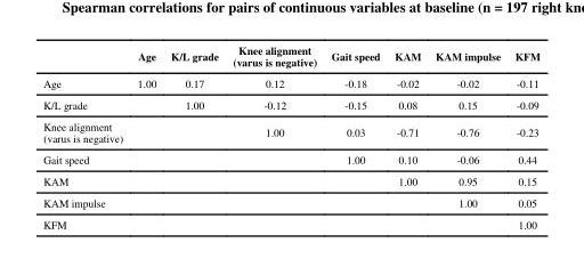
<table><thead><tr><td></td><td>Age</td><td>K/L grade</td><td>Knee alignment (varus is negative)</td><td>Gait speed</td><td>KAM</td><td>KAM impulse</td><td>KFM</td></tr></thead><tbody><tr><td>Age</td><td>1.00</td><td>0.17</td><td>0.12</td><td>-0.18</td><td>-0.02</td><td>-0.02</td><td>-0.11</td></tr><tr><td>K/L grade</td><td></td><td>1.00</td><td>-0.12</td><td>-0.15</td><td>0.08</td><td>0.15</td><td>-0.09</td></tr><tr><td>Knee alignment (varus is negative)</td><td></td><td></td><td>1.00</td><td>0.03</td><td>-0.71</td><td>-0.76</td><td>-0.23</td></tr><tr><td>Gait speed</td><td></td><td></td><td></td><td>1.00</td><td>0.10</td><td>-0.06</td><td>0.44</td></tr><tr><td>KAM</td><td></td><td></td><td></td><td></td><td>1.00</td><td>0.95</td><td>0.15</td></tr><tr><td>KAM impulse</td><td></td><td></td><td></td><td></td><td></td><td>1.00</td><td>0.05</td></tr><tr><td>KFM</td><td></td><td></td><td></td><td></td><td></td><td></td><td>1.00</td></tr></tbody></table>